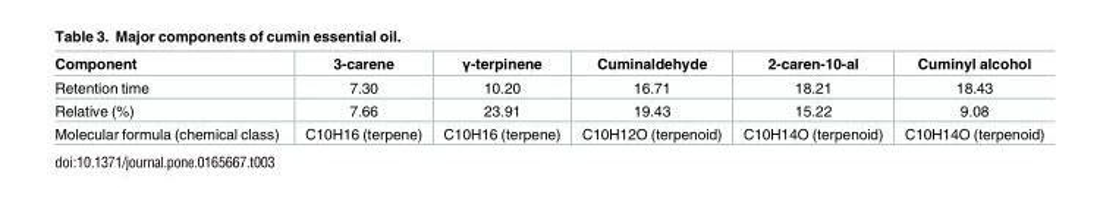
<table><thead><tr><td>Component</td><td>3-carene</td><td>γ-terpinene</td><td>Cuminaldehyde</td><td>2-caren-10-al</td><td>Cuminyl alcohol</td></tr></thead><tbody><tr><td>Retention time</td><td>7.30</td><td>10.20</td><td>16.71</td><td>18.21</td><td>18.43</td></tr><tr><td>Relative (%)</td><td>7.66</td><td>23.91</td><td>19.43</td><td>15.22</td><td>9.08</td></tr><tr><td>Molecular formula (chemical class)</td><td>C10H16 (terpene)</td><td>C10H16 (terpene)</td><td>C10H12O (terpenoid)</td><td>C10H14O (terpenoid)</td><td>C10H14O (terpenoid)</td></tr></tbody></table>